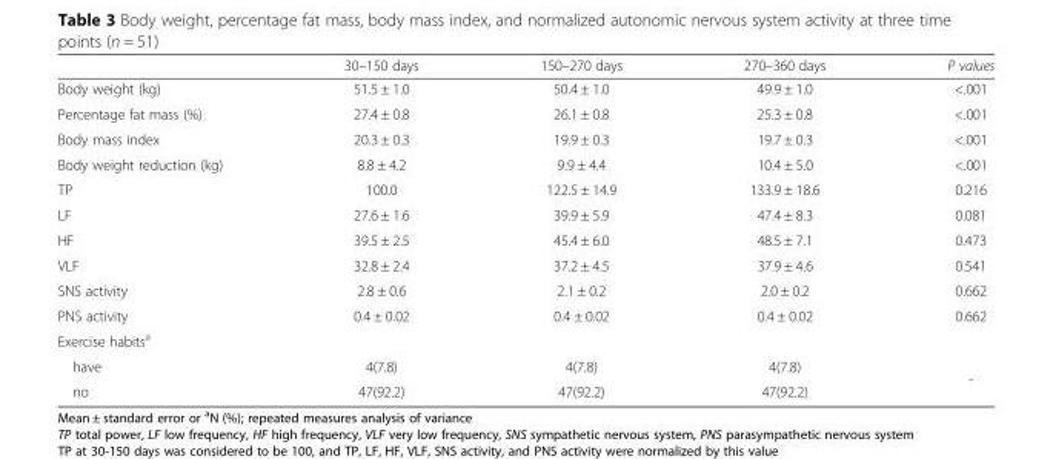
<table><thead><tr><td></td><td>30–150 days</td><td>150–270 days</td><td>270–360 days</td><td>P values</td></tr></thead><tbody><tr><td>Body weight (kg)</td><td>51.5 ± 1.0</td><td>50.4 ± 1.0</td><td>49.9 ± 1.0</td><td>&lt;.001</td></tr><tr><td>Percentage fat mass (%)</td><td>27.4 ± 0.8</td><td>26.1 ± 0.8</td><td>25.3 ± 0.8</td><td>&lt;.001</td></tr><tr><td>Body mass index</td><td>20.3 ± 0.3</td><td>19.9 ± 0.3</td><td>19.7 ± 0.3</td><td>&lt;.001</td></tr><tr><td>Body weight reduction (kg)</td><td>8.8 ± 4.2</td><td>9.9 ± 4.4</td><td>10.4 ± 5.0</td><td>&lt;.001</td></tr><tr><td>TP</td><td>100.0</td><td>122.5 ± 14.9</td><td>133.9 ± 18.6</td><td>0.216</td></tr><tr><td>LF</td><td>27.6 ± 1.6</td><td>39.9 ± 5.9</td><td>47.4 ± 8.3</td><td>0.081</td></tr><tr><td>HF</td><td>39.5 ± 2.5</td><td>45.4 ± 6.0</td><td>48.5 ± 7.1</td><td>0.473</td></tr><tr><td>VLF</td><td>32.8 ± 2.4</td><td>37.2 ± 4.5</td><td>37.9 ± 4.6</td><td>0.541</td></tr><tr><td>SNS activity</td><td>2.8 ± 0.6</td><td>2.1 ± 0.2</td><td>2.0 ± 0.2</td><td>0.662</td></tr><tr><td>PNS activity</td><td>0.4 ± 0.02</td><td>0.4 ± 0.02</td><td>0.4 ± 0.02</td><td>0.662</td></tr><tr><td colspan="5">Exercise habits<sup>a</sup></td></tr><tr><td>have</td><td>4(7.8)</td><td>4(7.8)</td><td>4(7.8)</td><td rowspan="2">-</td></tr><tr><td>no</td><td>47(92.2)</td><td>47(92.2)</td><td>47(92.2)</td></tr></tbody></table>